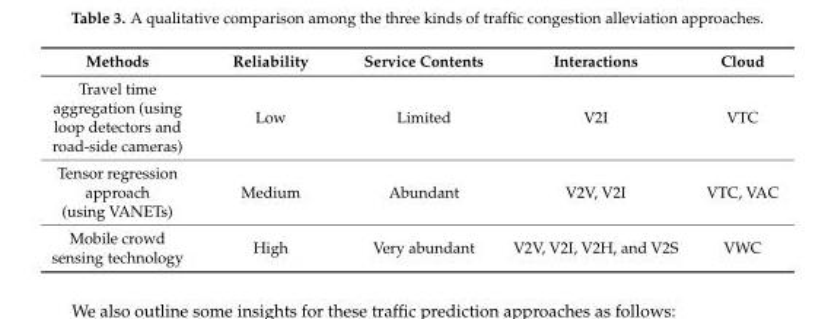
<table><thead><tr><td>Methods</td><td>Reliability</td><td>Service Contents</td><td>Interactions</td><td>Cloud</td></tr></thead><tbody><tr><td>Travel time aggregation (using loop detectors and road-side cameras)</td><td>Low</td><td>Limited</td><td>V2I</td><td>VTC</td></tr><tr><td>Tensor regression approach (using VANETs)</td><td>Medium</td><td>Abundant</td><td>V2V, V2I</td><td>VTC, VAC</td></tr><tr><td>Mobile crowd sensing technology</td><td>High</td><td>Very abundant</td><td>V2V, V2I, V2H, and V2S</td><td>VWC</td></tr></tbody></table>